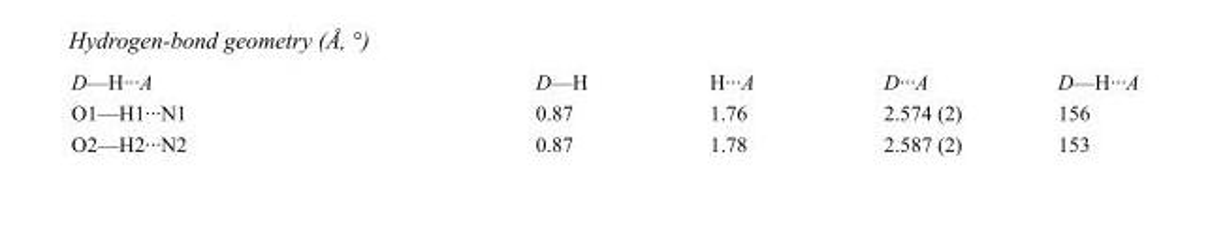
<table><tbody><tr><td>D—H···A</td><td>D—H</td><td>H···A</td><td>D···A</td><td>D—H···A</td></tr><tr><td>O1—H1···N1</td><td>0.87</td><td>1.76</td><td>2.574 (2)</td><td>156</td></tr><tr><td>O2—H2···N2</td><td>0.87</td><td>1.78</td><td>2.587 (2)</td><td>153</td></tr></tbody></table>